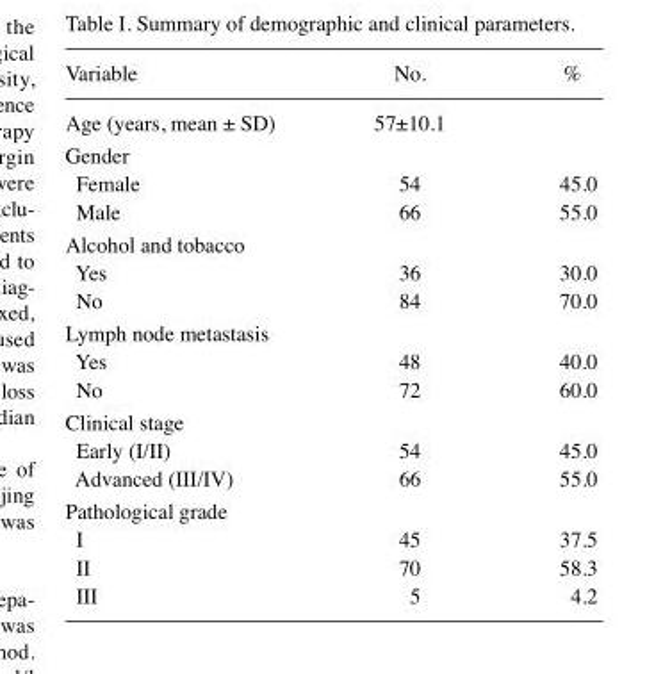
<table><thead><tr><td>Variable</td><td>No.</td><td>%</td></tr></thead><tbody><tr><td>Age (years, mean ± SD)</td><td>57±10.1</td><td></td></tr><tr><td colspan="3">Gender</td></tr><tr><td>Female</td><td>54</td><td>45.0</td></tr><tr><td>Male</td><td>66</td><td>55.0</td></tr><tr><td colspan="3">Alcohol and tobacco</td></tr><tr><td>Yes</td><td>36</td><td>30.0</td></tr><tr><td>No</td><td>84</td><td>70.0</td></tr><tr><td colspan="3">Lymph node metastasis</td></tr><tr><td>Yes</td><td>48</td><td>40.0</td></tr><tr><td>No</td><td>72</td><td>60.0</td></tr><tr><td colspan="3">Clinical stage</td></tr><tr><td>Early (I/II)</td><td>54</td><td>45.0</td></tr><tr><td>Advanced (III/Ⅳ)</td><td>66</td><td>55.0</td></tr><tr><td colspan="3">Pathological grade</td></tr><tr><td>I</td><td>45</td><td>37.5</td></tr><tr><td>II</td><td>70</td><td>58.3</td></tr><tr><td>III</td><td>5</td><td>4.2</td></tr></tbody></table>